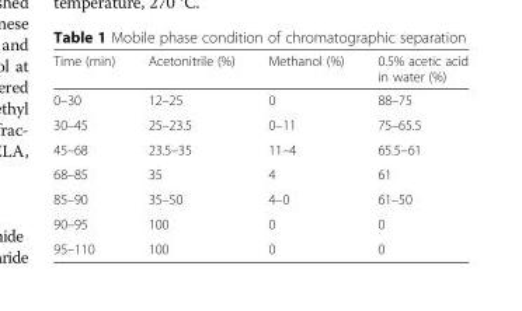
<table><thead><tr><td>Time (min)</td><td>Acetonitrile (%)</td><td>Methanol (%)</td><td>0.5% acetic acid in water (%)</td></tr></thead><tbody><tr><td>0–30</td><td>12–25</td><td>0</td><td>88–75</td></tr><tr><td>30–45</td><td>25–23.5</td><td>0–11</td><td>75–65.5</td></tr><tr><td>45–68</td><td>23.5–35</td><td>11–4</td><td>65.5–61</td></tr><tr><td>68–85</td><td>35</td><td>4</td><td>61</td></tr><tr><td>85–90</td><td>35–50</td><td>4–0</td><td>61–50</td></tr><tr><td>90–95</td><td>100</td><td>0</td><td>0</td></tr><tr><td>95–110</td><td>100</td><td>0</td><td>0</td></tr></tbody></table>